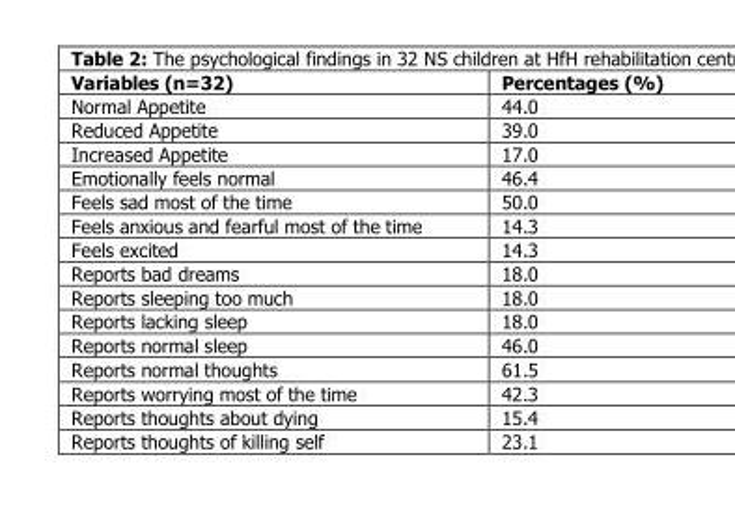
<table><thead><tr><td>Variables (n=32)</td><td>Percentages (%)</td></tr></thead><tbody><tr><td>Normal Appetite</td><td>44.0</td></tr><tr><td>Reduced Appetite</td><td>39.0</td></tr><tr><td>Increased Appetite</td><td>17.0</td></tr><tr><td>Emotionally feels normal</td><td>46.4</td></tr><tr><td>Feels sad most of the time</td><td>50.0</td></tr><tr><td>Feels anxious and fearful most of the time</td><td>14.3</td></tr><tr><td>Feels excited</td><td>14.3</td></tr><tr><td>Reports bad dreams</td><td>18.0</td></tr><tr><td>Reports sleeping too much</td><td>18.0</td></tr><tr><td>Reports lacking sleep</td><td>18.0</td></tr><tr><td>Reports normal sleep</td><td>46.0</td></tr><tr><td>Reports normal thoughts</td><td>61.5</td></tr><tr><td>Reports worrying most of the time</td><td>42.3</td></tr><tr><td>Reports thoughts about dying</td><td>15.4</td></tr><tr><td>Reports thoughts of killing self</td><td>23.1</td></tr></tbody></table>